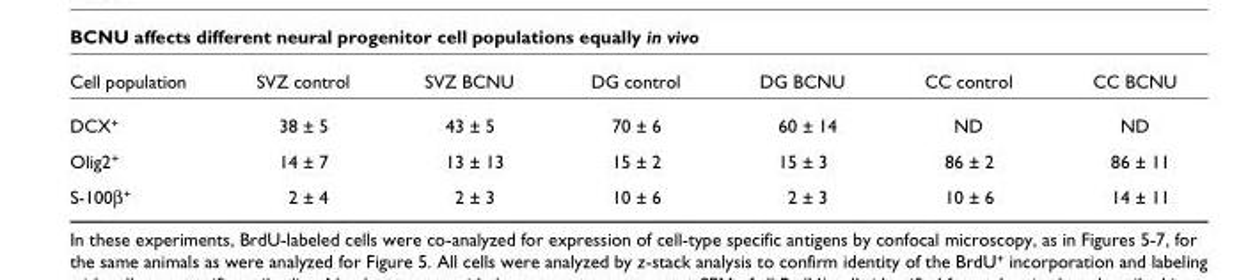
<table><thead><tr><td>Cell population</td><td>SVZ control</td><td>SVZ BCNU</td><td>DG control</td><td>DG BCNU</td><td>CC control</td><td>CC BCNU</td></tr></thead><tbody><tr><td>DCX<sup>+</sup></td><td>38 ± 5</td><td>43 ± 5</td><td>70 ± 6</td><td>60 ± 14</td><td>ND</td><td>ND</td></tr><tr><td>Olig2<sup>+</sup></td><td>14 ± 7</td><td>13 ± 13</td><td>15 ± 2</td><td>15 ± 3</td><td>86 ± 2</td><td>86 ± 11</td></tr><tr><td>S-100β<sup>+</sup></td><td>2 ± 4</td><td>2 ± 3</td><td>10 ± 6</td><td>2 ± 3</td><td>10 ± 6</td><td>14 ± 11</td></tr></tbody></table>